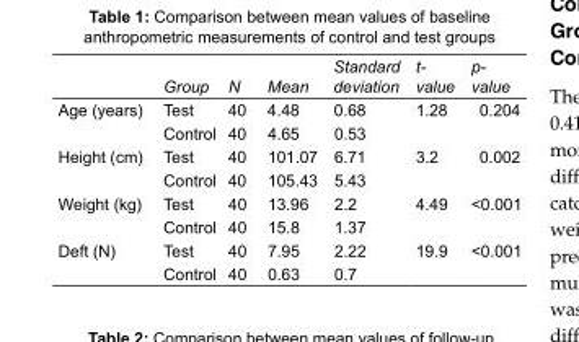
<table><thead><tr><td></td><td>Group</td><td>N</td><td>Mean</td><td>Standard deviation</td><td>t- value</td><td>p- value</td></tr></thead><tbody><tr><td rowspan="2">Age (years)</td><td>Test</td><td>40</td><td>4.48</td><td>0.68</td><td>1.28</td><td>0.204</td></tr><tr><td>Control</td><td>40</td><td>4.65</td><td>0.53</td><td></td><td></td></tr><tr><td rowspan="2">Height (cm)</td><td>Test</td><td>40</td><td>101.07</td><td>6.71</td><td>3.2</td><td>0.002</td></tr><tr><td>Control</td><td>40</td><td>105.43</td><td>5.43</td><td></td><td></td></tr><tr><td rowspan="2">Weight (kg)</td><td>Test</td><td>40</td><td>13.96</td><td>2.2</td><td>4.49</td><td>&lt;0.001</td></tr><tr><td>Control</td><td>40</td><td>15.8</td><td>1.37</td><td></td><td></td></tr><tr><td rowspan="2">Deft (N)</td><td>Test</td><td>40</td><td>7.95</td><td>2.22</td><td>19.9</td><td>&lt;0.001</td></tr><tr><td>Control</td><td>40</td><td>0.63</td><td>0.7</td><td></td><td></td></tr></tbody></table>